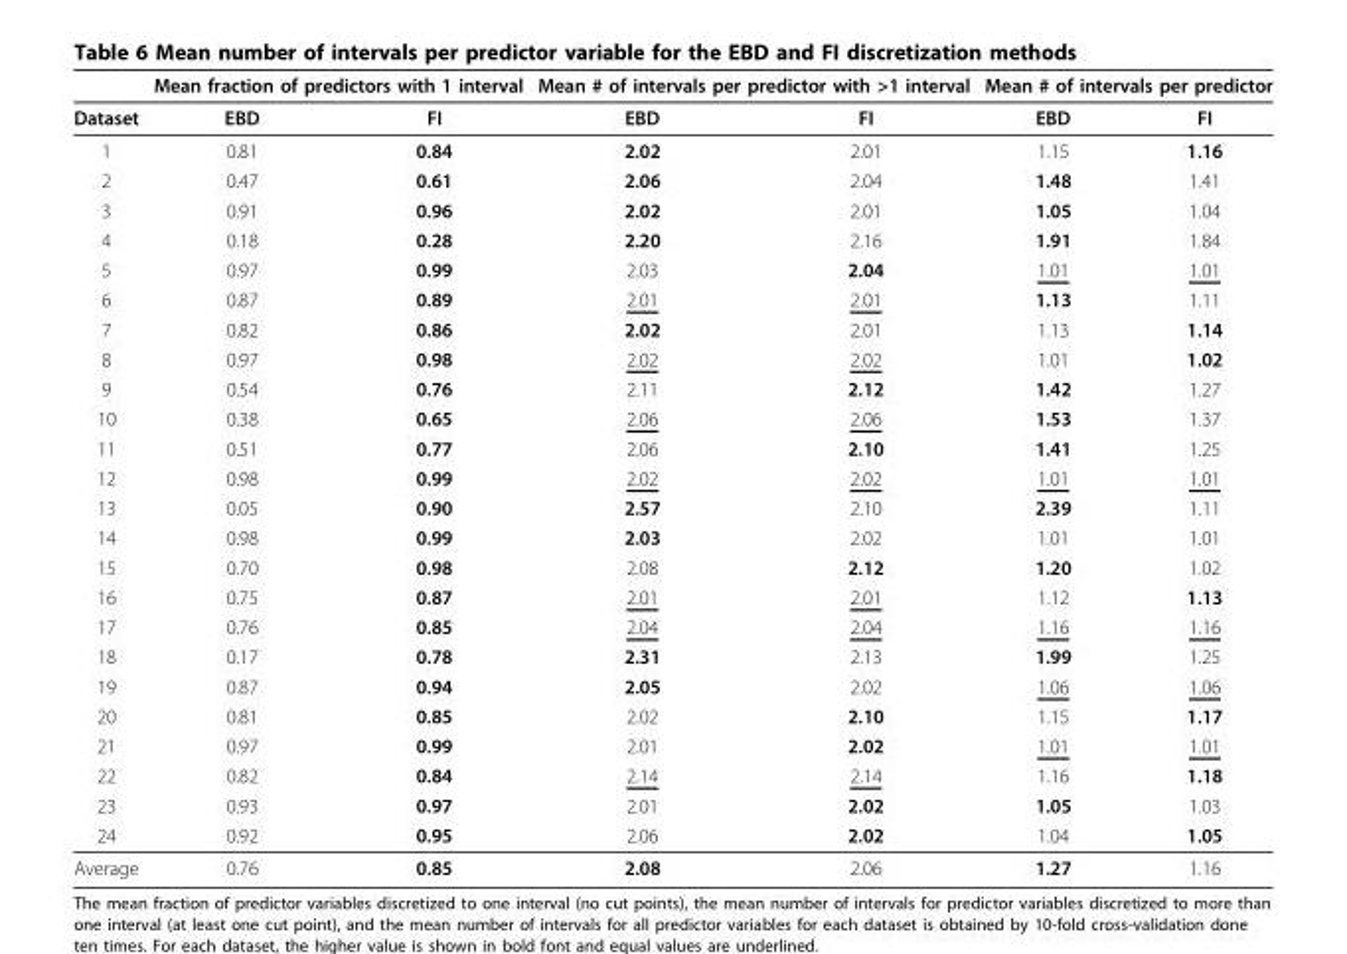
<table><thead><tr><td rowspan="2">Dataset</td><td colspan="2">Mean fraction of predictors with 1 interval</td><td colspan="2">Mean # of intervals per predictor with &gt;1 interval</td><td colspan="2">Mean # of intervals per predictor</td></tr><tr><td>EBD</td><td>FI</td><td>EBD</td><td>FI</td><td>EBD</td><td>FI</td></tr></thead><tbody><tr><td>1</td><td>0.81</td><td>0.84</td><td>2.02</td><td>2.01</td><td>1.15</td><td>1.16</td></tr><tr><td>2</td><td>0.47</td><td>0.61</td><td>2.06</td><td>2.04</td><td>1.48</td><td>1.41</td></tr><tr><td>3</td><td>0.91</td><td>0.96</td><td>2.02</td><td>2.01</td><td>1.05</td><td>1.04</td></tr><tr><td>4</td><td>0.18</td><td>0.28</td><td>2.20</td><td>2.16</td><td>1.91</td><td>1.84</td></tr><tr><td>5</td><td>0.97</td><td>0.99</td><td>2.03</td><td>2.04</td><td>1.01</td><td>1.01</td></tr><tr><td>6</td><td>0.87</td><td>0.89</td><td>2.01</td><td>2.01</td><td>1.13</td><td>1.11</td></tr><tr><td>7</td><td>0.82</td><td>0.86</td><td>2.02</td><td>2.01</td><td>1.13</td><td>1.14</td></tr><tr><td>8</td><td>0.97</td><td>0.98</td><td>2.02</td><td>2.02</td><td>1.01</td><td>1.02</td></tr><tr><td>9</td><td>0.54</td><td>0.76</td><td>2.11</td><td>2.12</td><td>1.42</td><td>1.27</td></tr><tr><td>10</td><td>0.38</td><td>0.65</td><td>2.06</td><td>2.06</td><td>1.53</td><td>1.37</td></tr><tr><td>11</td><td>0.51</td><td>0.77</td><td>2.06</td><td>2.10</td><td>1.41</td><td>1.25</td></tr><tr><td>12</td><td>0.98</td><td>0.99</td><td>2.02</td><td>2.02</td><td>1.01</td><td>1.01</td></tr><tr><td>13</td><td>0.05</td><td>0.90</td><td>2.57</td><td>2.10</td><td>2.39</td><td>1.11</td></tr><tr><td>14</td><td>0.98</td><td>0.99</td><td>2.03</td><td>2.02</td><td>1.01</td><td>1.01</td></tr><tr><td>15</td><td>0.70</td><td>0.98</td><td>2.08</td><td>2.12</td><td>1.20</td><td>1.02</td></tr><tr><td>16</td><td>0.75</td><td>0.87</td><td>2.01</td><td>2.01</td><td>1.12</td><td>1.13</td></tr><tr><td>17</td><td>0.76</td><td>0.85</td><td>2.04</td><td>2.04</td><td>1.16</td><td>1.16</td></tr><tr><td>18</td><td>0.17</td><td>0.78</td><td>2.31</td><td>2.13</td><td>1.99</td><td>1.25</td></tr><tr><td>19</td><td>0.87</td><td>0.94</td><td>2.05</td><td>2.02</td><td>1.06</td><td>1.06</td></tr><tr><td>20</td><td>0.81</td><td>0.85</td><td>2.02</td><td>2.10</td><td>1.15</td><td>1.17</td></tr><tr><td>21</td><td>0.97</td><td>0.99</td><td>2.01</td><td>2.02</td><td>1.01</td><td>1.01</td></tr><tr><td>22</td><td>0.82</td><td>0.84</td><td>2.14</td><td>2.14</td><td>1.16</td><td>1.18</td></tr><tr><td>23</td><td>0.93</td><td>0.97</td><td>2.01</td><td>2.02</td><td>1.05</td><td>1.03</td></tr><tr><td>24</td><td>0.92</td><td>0.95</td><td>2.06</td><td>2.02</td><td>1.04</td><td>1.05</td></tr><tr><td>Average</td><td>0.76</td><td>0.85</td><td>2.08</td><td>2.06</td><td>1.27</td><td>1.16</td></tr></tbody></table>